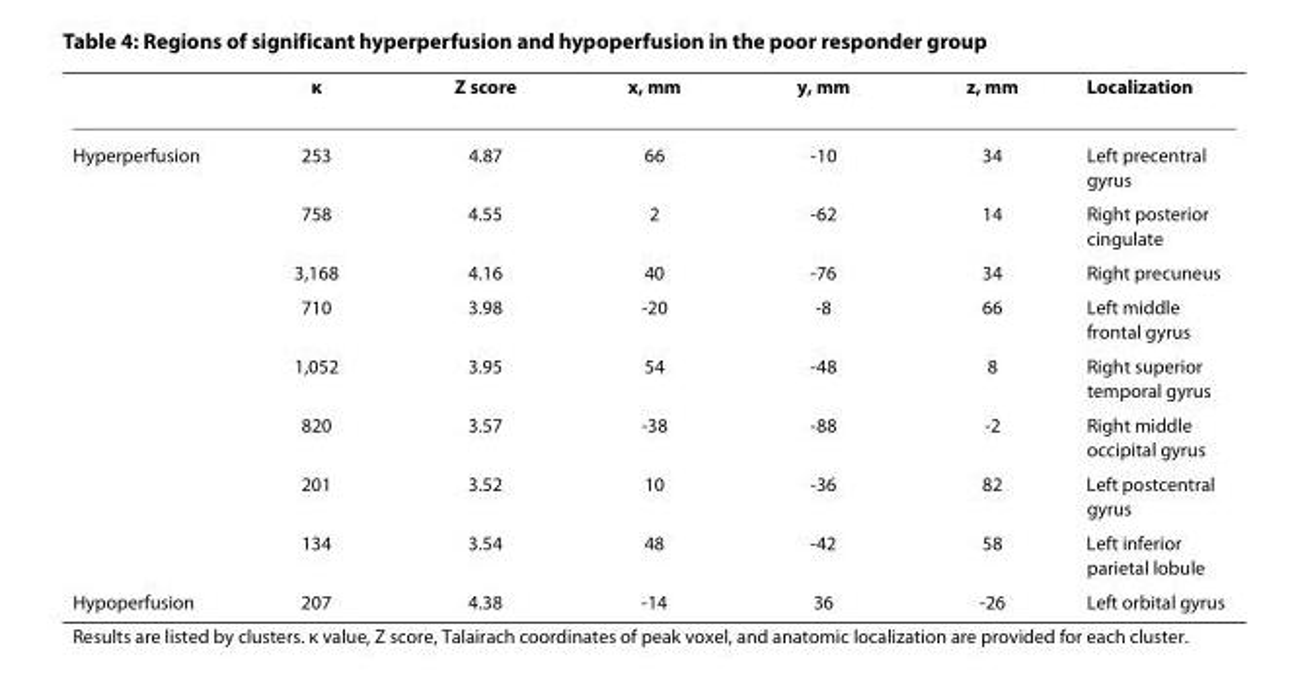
<table><thead><tr><td></td><td>κ</td><td>Z score</td><td>x, mm</td><td>y, mm</td><td>z, mm</td><td>Localization</td></tr></thead><tbody><tr><td rowspan="8">Hyperperfusion</td><td>253</td><td>4.87</td><td>66</td><td>-10</td><td>34</td><td>Left precentral gyrus</td></tr><tr><td>758</td><td>4.55</td><td>2</td><td>-62</td><td>14</td><td>Right posterior cingulate</td></tr><tr><td>3,168</td><td>4.16</td><td>40</td><td>-76</td><td>34</td><td>Right precuneus</td></tr><tr><td>710</td><td>3.98</td><td>-20</td><td>-8</td><td>66</td><td>Left middle frontal gyrus</td></tr><tr><td>1,052</td><td>3.95</td><td>54</td><td>-48</td><td>8</td><td>Right superior temporal gyrus</td></tr><tr><td>820</td><td>3.57</td><td>-38</td><td>-88</td><td>-2</td><td>Right middle occipital gyrus</td></tr><tr><td>201</td><td>3.52</td><td>10</td><td>-36</td><td>82</td><td>Left postcentral gyrus</td></tr><tr><td>134</td><td>3.54</td><td>48</td><td>-42</td><td>58</td><td>Left inferior parietal lobule</td></tr><tr><td>Hypoperfusion</td><td>207</td><td>4.38</td><td>-14</td><td>36</td><td>-26</td><td>Left orbital gyrus</td></tr></tbody></table>